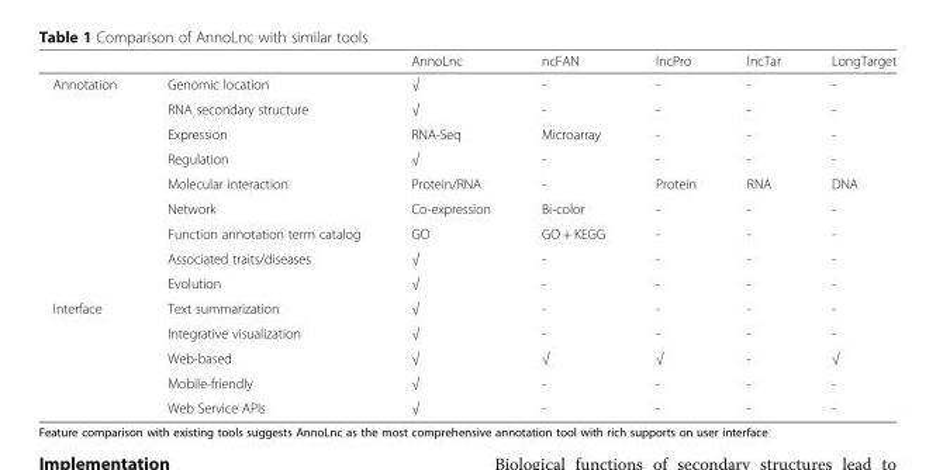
<table><thead><tr><td></td><td></td><td>AnnoLnc</td><td>ncFAN</td><td>lncPro</td><td>lncTar</td><td>LongTarget</td></tr></thead><tbody><tr><td rowspan="9">Annotation</td><td>Genomic location</td><td>√</td><td>-</td><td>-</td><td>-</td><td>-</td></tr><tr><td>RNA secondary structure</td><td>√</td><td>-</td><td>-</td><td>-</td><td>-</td></tr><tr><td>Expression</td><td>RNA-Seq</td><td>Microarray</td><td>-</td><td>-</td><td>-</td></tr><tr><td>Regulation</td><td>√</td><td>-</td><td>-</td><td>-</td><td>-</td></tr><tr><td>Molecular interaction</td><td>Protein/RNA</td><td>-</td><td>Protein</td><td>RNA</td><td>DNA</td></tr><tr><td>Network</td><td>Co-expression</td><td>Bi-color</td><td>-</td><td>-</td><td>-</td></tr><tr><td>Function annotation term catalog</td><td>GO</td><td>GO + KEGG</td><td>-</td><td>-</td><td>-</td></tr><tr><td>Associated traits/diseases</td><td>√</td><td>-</td><td>-</td><td>-</td><td>-</td></tr><tr><td>Evolution</td><td>√</td><td>-</td><td>-</td><td>-</td><td>-</td></tr><tr><td rowspan="5">Interface</td><td>Text summarization</td><td>√</td><td>-</td><td>-</td><td>-</td><td>-</td></tr><tr><td>Integrative visualization</td><td>√</td><td>-</td><td>-</td><td>-</td><td>-</td></tr><tr><td>Web-based</td><td>√</td><td>√</td><td>√</td><td>-</td><td>√</td></tr><tr><td>Mobile-friendly</td><td>√</td><td>-</td><td>-</td><td>-</td><td>-</td></tr><tr><td>Web Service APIs</td><td>√</td><td>-</td><td>-</td><td>-</td><td>-</td></tr></tbody></table>